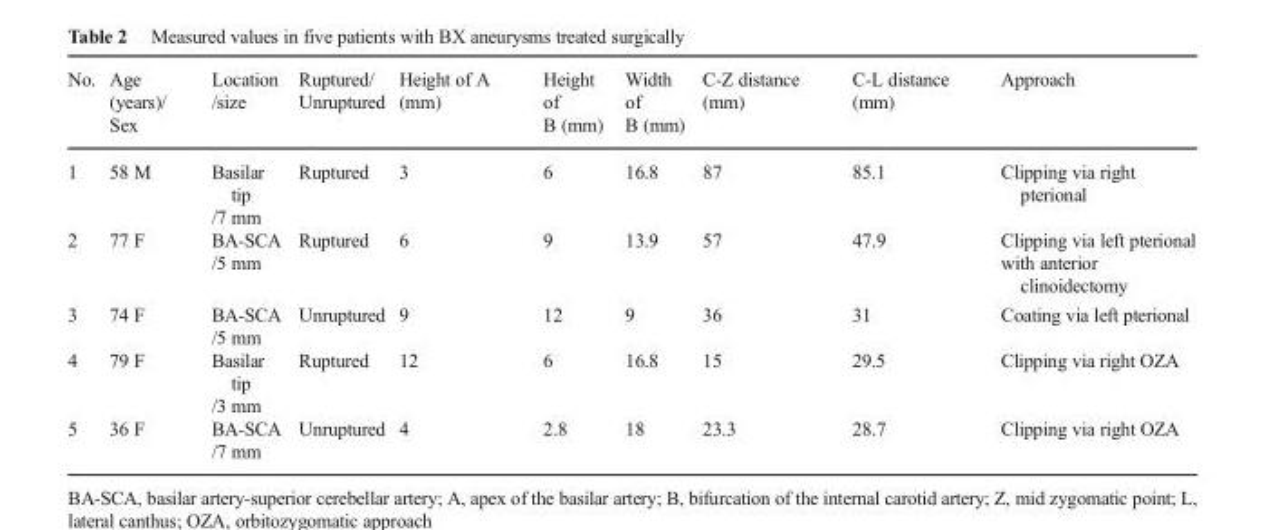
<table><thead><tr><td>No.</td><td>Age (years)/ Sex</td><td>Location /size</td><td>Ruptured/ Unruptured</td><td>Height of A (mm)</td><td>Height of B (mm)</td><td>Width of B (mm)</td><td>C-Z distance (mm)</td><td>C-L distance (mm)</td><td>Approach</td></tr></thead><tbody><tr><td>1</td><td>58 M</td><td>Basilar tip /7 mm</td><td>Ruptured</td><td>3</td><td>6</td><td>16.8</td><td>87</td><td>85.1</td><td>Clipping via right pterional</td></tr><tr><td>2</td><td>77 F</td><td>BA-SCA /5 mm</td><td>Ruptured</td><td>6</td><td>9</td><td>13.9</td><td>57</td><td>47.9</td><td>Clipping via left pterional with anterior clinoidectomy</td></tr><tr><td>3</td><td>74 F</td><td>BA-SCA /5 mm</td><td>Unruptured</td><td>9</td><td>12</td><td>9</td><td>36</td><td>31</td><td>Coating via left pterional</td></tr><tr><td>4</td><td>79 F</td><td>Basilar tip /3 mm</td><td>Ruptured</td><td>12</td><td>6</td><td>16.8</td><td>15</td><td>29.5</td><td>Clipping via right OZA</td></tr><tr><td>5</td><td>36 F</td><td>BA-SCA /7 mm</td><td>Unruptured</td><td>4</td><td>2.8</td><td>18</td><td>23.3</td><td>28.7</td><td>Clipping via right OZA</td></tr></tbody></table>